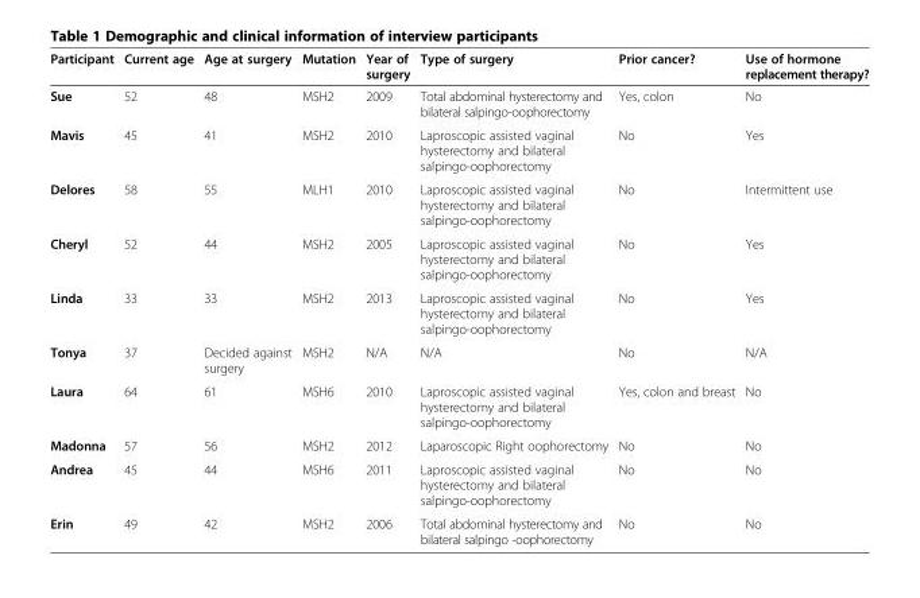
<table><thead><tr><td>Participant</td><td>Current age</td><td>Age at surgery</td><td>Mutation</td><td>Year of surgery</td><td>Type of surgery</td><td>Prior cancer?</td><td>Use of hormone replacement therapy?</td></tr></thead><tbody><tr><td>Sue</td><td>52</td><td>48</td><td>MSH2</td><td>2009</td><td>Total abdominal hysterectomy and bilateral salpingo-oophorectomy</td><td>Yes, colon</td><td>No</td></tr><tr><td>Mavis</td><td>45</td><td>41</td><td>MSH2</td><td>2010</td><td>Laproscopic assisted vaginal hysterectomy and bilateral salpingo-oophorectomy</td><td>No</td><td>Yes</td></tr><tr><td>Delores</td><td>58</td><td>55</td><td>MLH1</td><td>2010</td><td>Laproscopic assisted vaginal hysterectomy and bilateral salpingo-oophorectomy</td><td>No</td><td>Intermittent use</td></tr><tr><td>Cheryl</td><td>52</td><td>44</td><td>MSH2</td><td>2005</td><td>Laproscopic assisted vaginal hysterectomy and bilateral salpingo-oophorectomy</td><td>No</td><td>Yes</td></tr><tr><td>Linda</td><td>33</td><td>33</td><td>MSH2</td><td>2013</td><td>Laproscopic assisted vaginal hysterectomy and bilateral salpingo-oophorectomy</td><td>No</td><td>Yes</td></tr><tr><td>Tonya</td><td>37</td><td>Decided against surgery</td><td>MSH2</td><td>N/A</td><td>N/A</td><td>No</td><td>N/A</td></tr><tr><td>Laura</td><td>64</td><td>61</td><td>MSH6</td><td>2010</td><td>Laproscopic assisted vaginal hysterectomy and bilateral salpingo-oophorectomy</td><td>Yes, colon and breast</td><td>No</td></tr><tr><td>Madonna</td><td>57</td><td>56</td><td>MSH2</td><td>2012</td><td>Laparoscopic Right oophorectomy</td><td>No</td><td>No</td></tr><tr><td>Andrea</td><td>45</td><td>44</td><td>MSH6</td><td>2011</td><td>Laproscopic assisted vaginal hysterectomy and bilateral salpingo-oophorectomy</td><td>No</td><td>No</td></tr><tr><td>Erin</td><td>49</td><td>42</td><td>MSH2</td><td>2006</td><td>Total abdominal hysterectomy and bilateral salpingo -oophorectomy</td><td>No</td><td>No</td></tr></tbody></table>